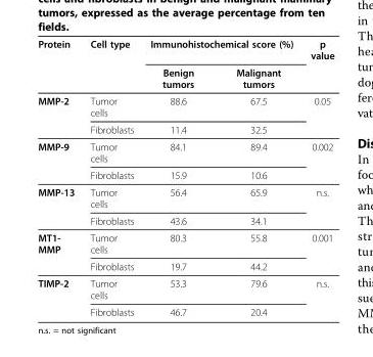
<table><thead><tr><td rowspan="2">Protein</td><td rowspan="2">Cell type</td><td colspan="2">Immunohistochemical score (%)</td><td rowspan="2">p value</td></tr><tr><td>Benign tumors</td><td>Malignant tumors</td></tr></thead><tbody><tr><td rowspan="2">MMP-2</td><td>Tumor cells</td><td>88.6</td><td>67.5</td><td>0.05</td></tr><tr><td>Fibroblasts</td><td>11.4</td><td>32.5</td><td></td></tr><tr><td rowspan="2">MMP-9</td><td>Tumor cells</td><td>84.1</td><td>89.4</td><td>0.002</td></tr><tr><td>Fibroblasts</td><td>15.9</td><td>10.6</td><td></td></tr><tr><td rowspan="2">MMP-13</td><td>Tumor cells</td><td>56.4</td><td>65.9</td><td>n.s.</td></tr><tr><td>Fibroblasts</td><td>43.6</td><td>34.1</td><td></td></tr><tr><td rowspan="2">MT1- MMP</td><td>Tumor cells</td><td>80.3</td><td>55.8</td><td>0.001</td></tr><tr><td>Fibroblasts</td><td>19.7</td><td>44.2</td><td></td></tr><tr><td rowspan="2">TIMP-2</td><td>Tumor cells</td><td>53.3</td><td>79.6</td><td>n.s.</td></tr><tr><td>Fibroblasts</td><td>46.7</td><td>20.4</td><td></td></tr></tbody></table>